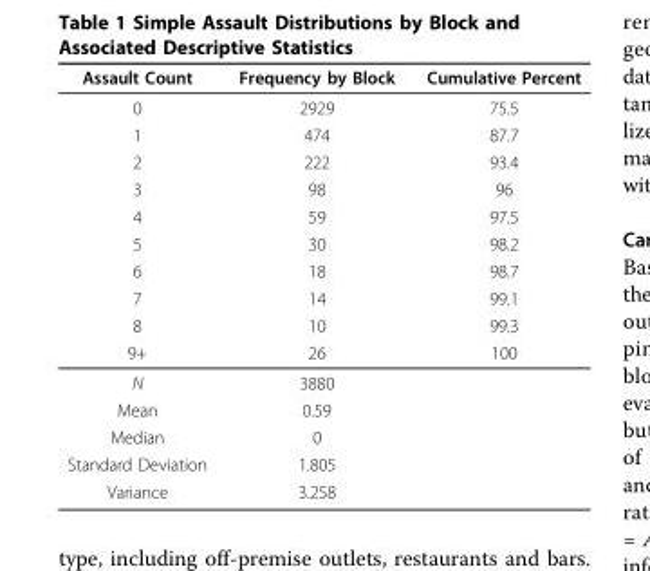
<table><thead><tr><td>Assault Count</td><td>Frequency by Block</td><td>Cumulative Percent</td></tr></thead><tbody><tr><td>0</td><td>2929</td><td>75.5</td></tr><tr><td>1</td><td>474</td><td>87.7</td></tr><tr><td>2</td><td>222</td><td>93.4</td></tr><tr><td>3</td><td>98</td><td>96</td></tr><tr><td>4</td><td>59</td><td>97.5</td></tr><tr><td>5</td><td>30</td><td>98.2</td></tr><tr><td>6</td><td>18</td><td>98.7</td></tr><tr><td>7</td><td>14</td><td>99.1</td></tr><tr><td>8</td><td>10</td><td>99.3</td></tr><tr><td>9+</td><td>26</td><td>100</td></tr><tr><td>N</td><td>3880</td><td></td></tr><tr><td>Mean</td><td>0.59</td><td></td></tr><tr><td>Median</td><td>0</td><td></td></tr><tr><td>Standard Deviation</td><td>1.805</td><td></td></tr><tr><td>Variance</td><td>3.258</td><td></td></tr></tbody></table>